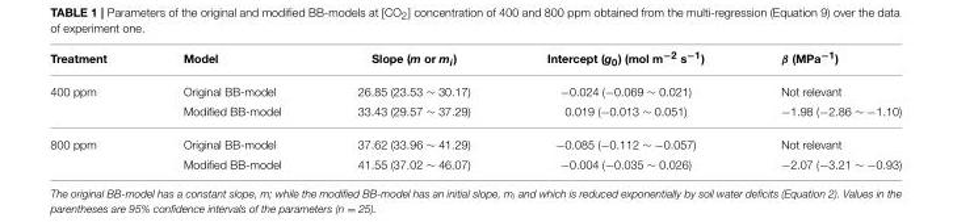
<table><thead><tr><td>Treatment</td><td>Model</td><td>Slope (m or m<sub>i</sub>)</td><td>Intercept (g<sub>0</sub>) (mol m<sup>−2</sup> s<sup>−1</sup>)</td><td>β (MPa<sup>−1</sup>)</td></tr></thead><tbody><tr><td rowspan="2">400 ppm</td><td>Original BB-model</td><td>26.85 (23.53 ∼ 30.17)</td><td>−0.024 (−0.069 ∼ 0.021)</td><td>Not relevant</td></tr><tr><td>Modified BB-model</td><td>33.43 (29.57 ∼ 37.29)</td><td>0.019 (−0.013 ∼ 0.051)</td><td>−1.98 (−2.86 ∼ −1.10)</td></tr><tr><td rowspan="2">800 ppm</td><td>Original BB-model</td><td>37.62 (33.96 ∼ 41.29)</td><td>−0.085 (−0.112 ∼ −0.057)</td><td>Not relevant</td></tr><tr><td>Modified BB-model</td><td>41.55 (37.02 ∼ 46.07)</td><td>−0.004 (−0.035 ∼ 0.026)</td><td>−2.07 (−3.21 ∼ −0.93)</td></tr></tbody></table>